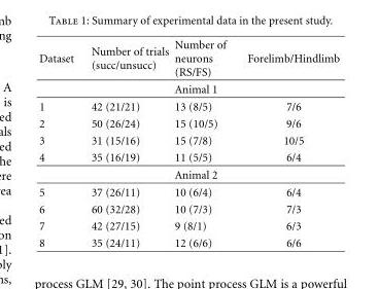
<table><thead><tr><td>Dataset</td><td>Number of trials (succ/unsucc)</td><td>Number of neurons (RS/FS)</td><td>Forelimb/Hindlimb</td></tr></thead><tbody><tr><td></td><td></td><td>Animal 1</td><td></td></tr><tr><td>1</td><td>42 (21/21)</td><td>13 (8/5)</td><td>7/6</td></tr><tr><td>2</td><td>50 (26/24)</td><td>15 (10/5)</td><td>9/6</td></tr><tr><td>3</td><td>31 (15/16)</td><td>15 (7/8)</td><td>10/5</td></tr><tr><td rowspan="2">4</td><td>35 (16/19)</td><td>11 (5/5)</td><td>6/4</td></tr><tr><td></td><td>Animal 2</td><td></td></tr><tr><td>5</td><td>37 (26/11)</td><td>10 (6/4)</td><td>6/4</td></tr><tr><td>6</td><td>60 (32/28)</td><td>10 (7/3)</td><td>7/3</td></tr><tr><td>7</td><td>42 (27/15)</td><td>9 (8/1)</td><td>6/3</td></tr><tr><td>8</td><td>35 (24/11)</td><td>12 (6/6)</td><td>6/6</td></tr></tbody></table>